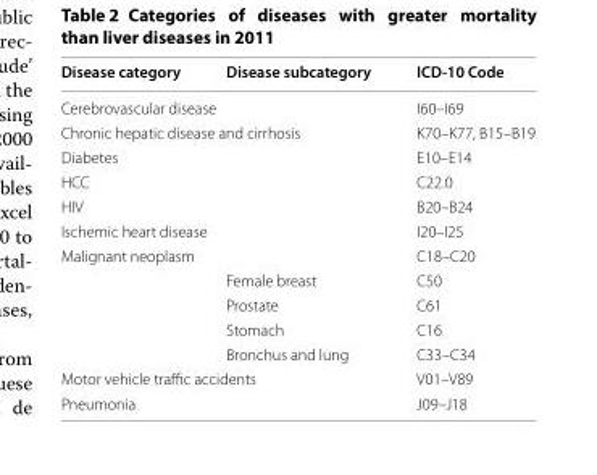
<table><thead><tr><td>Disease category</td><td>Disease subcategory</td><td>ICD-10 Code</td></tr></thead><tbody><tr><td colspan="2">Cerebrovascular disease</td><td>I60–I69</td></tr><tr><td colspan="2">Chronic hepatic disease and cirrhosis</td><td>K70–K77, B15–B19</td></tr><tr><td colspan="2">Diabetes</td><td>E10–E14</td></tr><tr><td colspan="2">HCC</td><td>C22.0</td></tr><tr><td colspan="2">HIV</td><td>B20–B24</td></tr><tr><td colspan="2">Ischemic heart disease</td><td>I20–I25</td></tr><tr><td colspan="2">Malignant neoplasm</td><td>C18–C20</td></tr><tr><td rowspan="4"></td><td>Female breast</td><td>C50</td></tr><tr><td>Prostate</td><td>C61</td></tr><tr><td>Stomach</td><td>C16</td></tr><tr><td>Bronchus and lung</td><td>C33–C34</td></tr><tr><td colspan="2">Motor vehicle traffic accidents</td><td>V01–V89</td></tr><tr><td colspan="2">Pneumonia</td><td>J09–J18</td></tr></tbody></table>